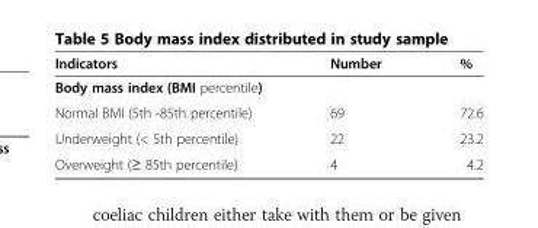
<table><thead><tr><td>Indicators</td><td>Number</td><td>%</td></tr></thead><tbody><tr><td colspan="3">Body mass index (BMI percentile)</td></tr><tr><td>Normal BMI (5th -85th percentile)</td><td>69</td><td>72.6</td></tr><tr><td>Underweight (&lt; 5th percentile)</td><td>22</td><td>23.2</td></tr><tr><td>Overweight (≥ 85th percentile)</td><td>4</td><td>4.2</td></tr></tbody></table>